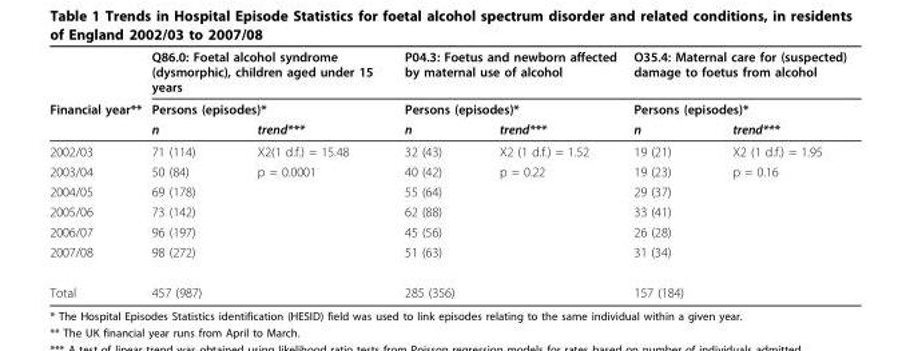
<table><thead><tr><td rowspan="3">Financial year**</td><td rowspan="2" colspan="2">Q86.0: Foetal alcohol syndrome (dysmorphic), children aged under 15 years Persons (episodes)*</td><td rowspan="2" colspan="2">P04.3: Foetus and newborn affected by maternal use of alcohol Persons (episodes)*</td><td rowspan="2" colspan="2">O35.4: Maternal care for (suspected) damage to foetus from alcohol Persons (episodes)*</td></tr><tr></tr><tr><td>n</td><td>trend***</td><td>n</td><td>trend***</td><td>n</td><td>trend***</td></tr></thead><tbody><tr><td>2002/03</td><td>71 (114)</td><td>Χ2(1 d.f.) = 15.48</td><td>32 (43)</td><td>Χ2 (1 d.f.) = 1.52</td><td>19 (21)</td><td>Χ2 (1 d.f.) = 1.95</td></tr><tr><td>2003/04</td><td>50 (84)</td><td>p = 0.0001</td><td>40 (42)</td><td>p = 0.22</td><td>19 (23)</td><td>p = 0.16</td></tr><tr><td>2004/05</td><td>69 (178)</td><td></td><td>55 (64)</td><td></td><td>29 (37)</td><td></td></tr><tr><td>2005/06</td><td>73 (142)</td><td></td><td>62 (88)</td><td></td><td>33 (41)</td><td></td></tr><tr><td>2006/07</td><td>96 (197)</td><td></td><td>45 (56)</td><td></td><td>26 (28)</td><td></td></tr><tr><td>2007/08</td><td>98 (272)</td><td></td><td>51 (63)</td><td></td><td>31 (34)</td><td></td></tr><tr><td>Total</td><td>457 (987)</td><td></td><td>285 (356)</td><td></td><td>157 (184)</td><td></td></tr></tbody></table>